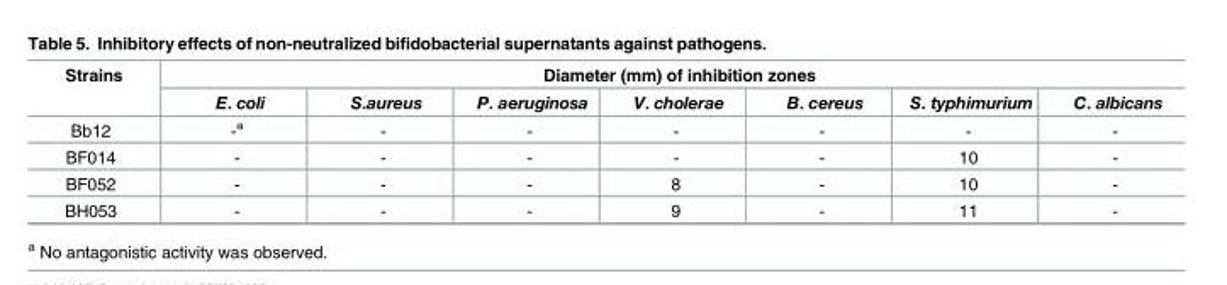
<table><thead><tr><td rowspan="2">Strains</td><td colspan="7">Diameter (mm) of inhibition zones</td></tr><tr><td>E. coli</td><td>S.aureus</td><td>P. aeruginosa</td><td>V. cholerae</td><td>B. cereus</td><td>S. typhimurium</td><td>C. albicans</td></tr></thead><tbody><tr><td>Bb12</td><td>-<sup>a</sup></td><td>-</td><td>-</td><td>-</td><td>-</td><td>-</td><td>-</td></tr><tr><td>BF014</td><td>-</td><td>-</td><td>-</td><td>-</td><td>-</td><td>10</td><td>-</td></tr><tr><td>BF052</td><td>-</td><td>-</td><td>-</td><td>8</td><td>-</td><td>10</td><td>-</td></tr><tr><td>BH053</td><td>-</td><td>-</td><td>-</td><td>9</td><td>-</td><td>11</td><td>-</td></tr></tbody></table>